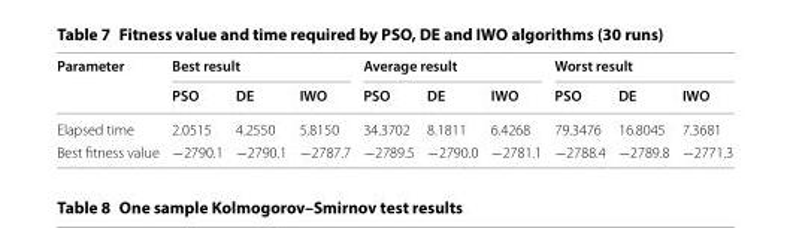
<table><thead><tr><td rowspan="2">Parameter</td><td colspan="3">Best result</td><td colspan="3">Average result</td><td colspan="3">Worst result</td></tr><tr><td>PSO</td><td>DE</td><td>IWO</td><td>PSO</td><td>DE</td><td>IWO</td><td>PSO</td><td>DE</td><td>IWO</td></tr></thead><tbody><tr><td>Elapsed time</td><td>2.0515</td><td>4.2550</td><td>5.8150</td><td>34.3702</td><td>8.1811</td><td>6.4268</td><td>79.3476</td><td>16.8045</td><td>7.3681</td></tr><tr><td>Best fitness value</td><td>−2790.1</td><td>−2790.1</td><td>−2787.7</td><td>−2789.5</td><td>−2790.0</td><td>−2781.1</td><td>−2788.4</td><td>−2789.8</td><td>−2771.3</td></tr></tbody></table>